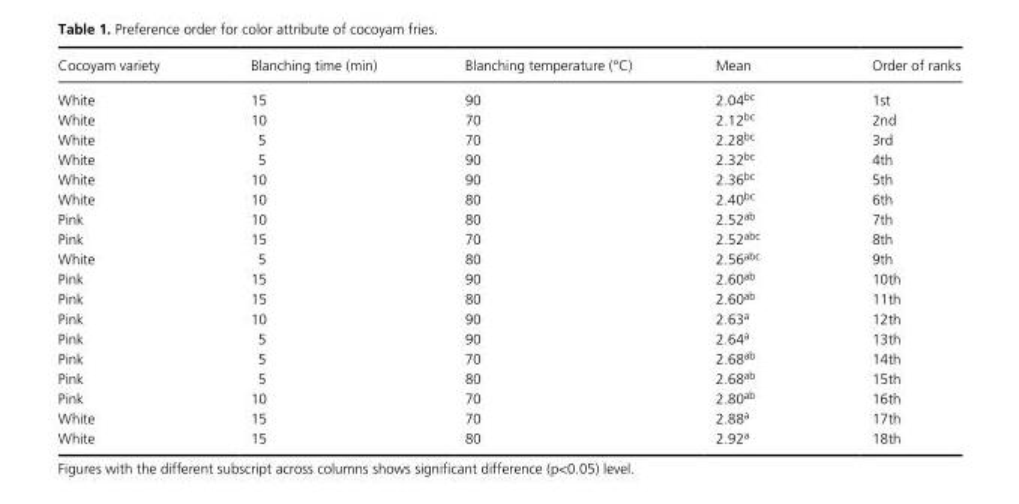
<table><thead><tr><td>Cocoyam variety</td><td>Blanching time (min)</td><td>Blanching temperature (°C)</td><td>Mean</td><td>Order of ranks</td></tr></thead><tbody><tr><td>White</td><td>15</td><td>90</td><td>2.04<sup>bc</sup></td><td>1st</td></tr><tr><td>White</td><td>10</td><td>70</td><td>2.12<sup>bc</sup></td><td>2nd</td></tr><tr><td>White</td><td>5</td><td>70</td><td>2.28<sup>bc</sup></td><td>3rd</td></tr><tr><td>White</td><td>5</td><td>90</td><td>2.32<sup>bc</sup></td><td>4th</td></tr><tr><td>White</td><td>10</td><td>90</td><td>2.36<sup>bc</sup></td><td>5th</td></tr><tr><td>White</td><td>10</td><td>80</td><td>2.40<sup>bc</sup></td><td>6th</td></tr><tr><td>Pink</td><td>10</td><td>80</td><td>2.52<sup>ab</sup></td><td>7th</td></tr><tr><td>Pink</td><td>15</td><td>70</td><td>2.52<sup>abc</sup></td><td>8th</td></tr><tr><td>White</td><td>5</td><td>80</td><td>2.56<sup>abc</sup></td><td>9th</td></tr><tr><td>Pink</td><td>15</td><td>90</td><td>2.60<sup>ab</sup></td><td>10th</td></tr><tr><td>Pink</td><td>15</td><td>80</td><td>2.60<sup>ab</sup></td><td>11th</td></tr><tr><td>Pink</td><td>10</td><td>90</td><td>2.63<sup>a</sup></td><td>12th</td></tr><tr><td>Pink</td><td>5</td><td>90</td><td>2.64<sup>a</sup></td><td>13th</td></tr><tr><td>Pink</td><td>5</td><td>70</td><td>2.68<sup>ab</sup></td><td>14th</td></tr><tr><td>Pink</td><td>5</td><td>80</td><td>2.68<sup>ab</sup></td><td>15th</td></tr><tr><td>Pink</td><td>10</td><td>70</td><td>2.80<sup>ab</sup></td><td>16th</td></tr><tr><td>White</td><td>15</td><td>70</td><td>2.88<sup>a</sup></td><td>17th</td></tr><tr><td>White</td><td>15</td><td>80</td><td>2.92<sup>a</sup></td><td>18th</td></tr></tbody></table>